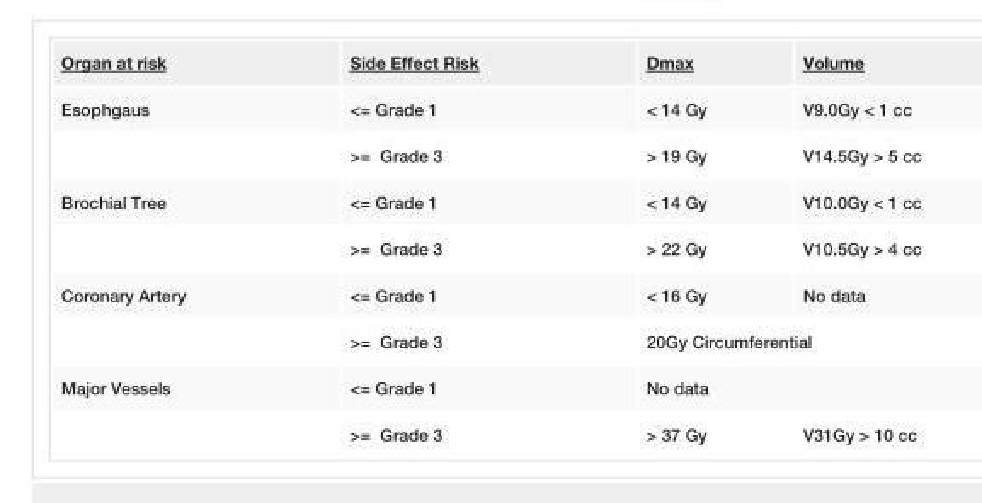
<table><tbody><tr><td>Organ at risk</td><td>Side Effect Risk</td><td>Dmax</td><td>Volume</td></tr><tr><td rowspan="2">Esophgaus</td><td>&lt;= Grade 1</td><td>&lt; 14 Gy</td><td>V9.0Gy &lt; 1 cc</td></tr><tr><td>&gt;= Grade 3</td><td>&gt; 19 Gy</td><td>V14.5Gy &gt; 5 cc</td></tr><tr><td rowspan="2">Brochial Tree</td><td>&lt;= Grade 1</td><td>&lt; 14 Gy</td><td>V10.0Gy &lt; 1 cc</td></tr><tr><td>&gt;= Grade 3</td><td>&gt; 22 Gy</td><td>V10.5Gy &gt; 4 cc</td></tr><tr><td rowspan="2">Coronary Artery</td><td>&lt;= Grade 1</td><td>&lt; 16 Gy</td><td>No data</td></tr><tr><td>&gt;= Grade 3</td><td colspan="2">20Gy Circumferential</td></tr><tr><td rowspan="2">Major Vessels</td><td>&lt;= Grade 1</td><td colspan="2">No data</td></tr><tr><td>&gt;= Grade 3</td><td>&gt; 37 Gy</td><td>V31Gy &gt; 10 cc</td></tr></tbody></table>